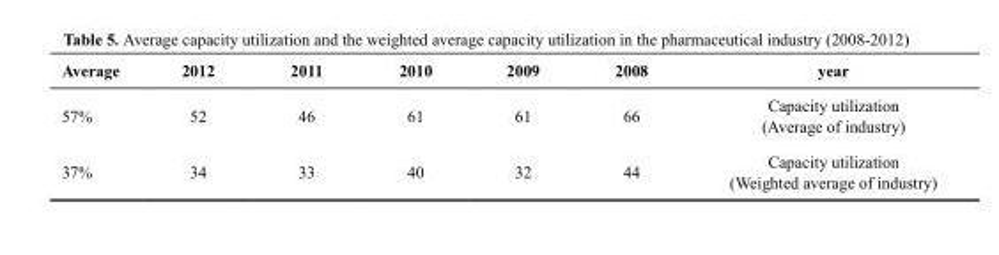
<table><thead><tr><td>Average</td><td>2012</td><td>2011</td><td>2010</td><td>2009</td><td>2008</td><td>year</td></tr></thead><tbody><tr><td>57%</td><td>52</td><td>46</td><td>61</td><td>61</td><td>66</td><td>Capacity utilization (Average of industry)</td></tr><tr><td>37%</td><td>34</td><td>33</td><td>40</td><td>32</td><td>44</td><td>Capacity utilization (Weighted average of industry)</td></tr></tbody></table>